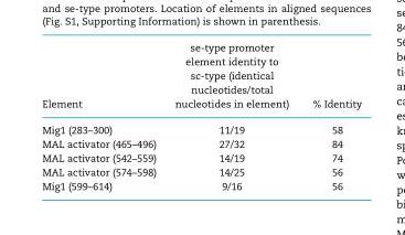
<table><thead><tr><td>Element</td><td>se-type promoter element identity to sc-type (identical nucleotides/total nucleotides in element)</td><td>% Identity</td></tr></thead><tbody><tr><td>Mig1 (283–300)</td><td>11/19</td><td>58</td></tr><tr><td>MAL activator (465–496)</td><td>27/32</td><td>84</td></tr><tr><td>MAL activator (542–559)</td><td>14/19</td><td>74</td></tr><tr><td>MAL activator (574–598)</td><td>14/25</td><td>56</td></tr><tr><td>Mig1 (599–614)</td><td>9/16</td><td>56</td></tr></tbody></table>